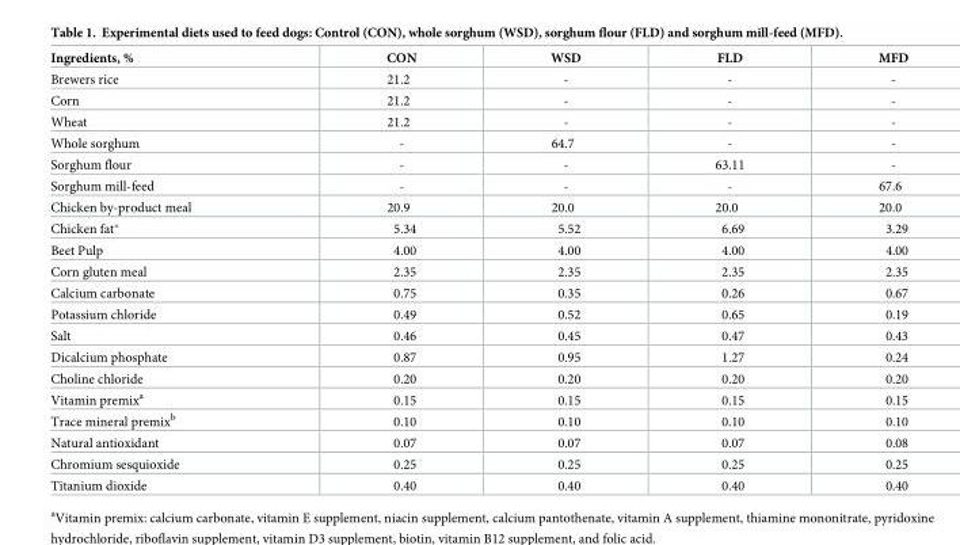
<table><thead><tr><td>Ingredients, %</td><td>CON</td><td>WSD</td><td>FLD</td><td>MFD</td></tr></thead><tbody><tr><td>Brewers rice</td><td>21.2</td><td>-</td><td>-</td><td>-</td></tr><tr><td>Corn</td><td>21.2</td><td>-</td><td>-</td><td>-</td></tr><tr><td>Wheat</td><td>21.2</td><td>-</td><td>-</td><td>-</td></tr><tr><td>Whole sorghum</td><td>-</td><td>64.7</td><td>-</td><td>-</td></tr><tr><td>Sorghum flour</td><td>-</td><td>-</td><td>63.11</td><td>-</td></tr><tr><td>Sorghum mill-feed</td><td>-</td><td>-</td><td>-</td><td>67.6</td></tr><tr><td>Chicken by-product meal</td><td>20.9</td><td>20.0</td><td>20.0</td><td>20.0</td></tr><tr><td>Chicken fat*</td><td>5.34</td><td>5.52</td><td>6.69</td><td>3.29</td></tr><tr><td>Beet Pulp</td><td>4.00</td><td>4.00</td><td>4.00</td><td>4.00</td></tr><tr><td>Corn gluten meal</td><td>2.35</td><td>2.35</td><td>2.35</td><td>2.35</td></tr><tr><td>Calcium carbonate</td><td>0.75</td><td>0.35</td><td>0.26</td><td>0.67</td></tr><tr><td>Potassium chloride</td><td>0.49</td><td>0.52</td><td>0.65</td><td>0.19</td></tr><tr><td>Salt</td><td>0.46</td><td>0.45</td><td>0.47</td><td>0.43</td></tr><tr><td>Dicalcium phosphate</td><td>0.87</td><td>0.95</td><td>1.27</td><td>0.24</td></tr><tr><td>Choline chloride</td><td>0.20</td><td>0.20</td><td>0.20</td><td>0.20</td></tr><tr><td>Vitamin premix<sup>a</sup></td><td>0.15</td><td>0.15</td><td>0.15</td><td>0.15</td></tr><tr><td>Trace mineral premix<sup>b</sup></td><td>0.10</td><td>0.10</td><td>0.10</td><td>0.10</td></tr><tr><td>Natural antioxidant</td><td>0.07</td><td>0.07</td><td>0.07</td><td>0.08</td></tr><tr><td>Chromium sesquioxide</td><td>0.25</td><td>0.25</td><td>0.25</td><td>0.25</td></tr><tr><td>Titanium dioxide</td><td>0.40</td><td>0.40</td><td>0.40</td><td>0.40</td></tr></tbody></table>